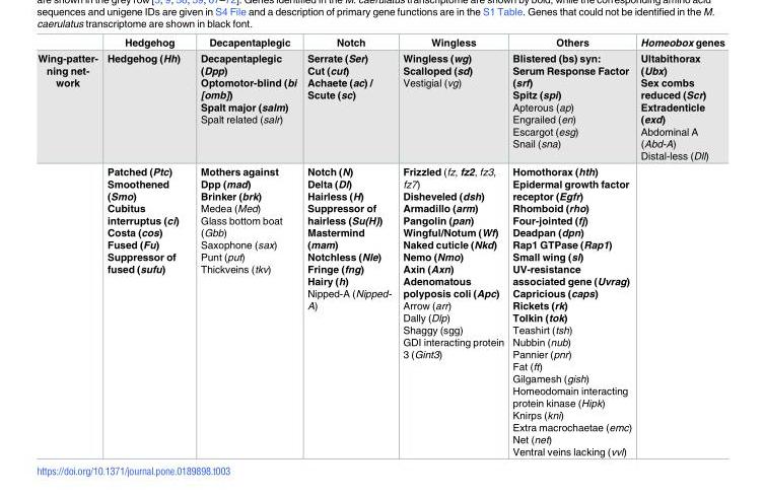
<table><thead><tr><td></td><td>Hedgehog</td><td>Decapentaplegic</td><td>Notch</td><td>Wingless</td><td>Others</td><td>Homeobox genes</td></tr></thead><tbody><tr><td rowspan="2">Wing-patter- ning net- work</td><td>Hedgehog (Hh)</td><td>Decapentaplegic (Dpp) Optomotor-blind (bi [omb]) Spalt major (salm) Spalt related (salr)</td><td>Serrate (Ser) Cut (cut) Achaete (ac) / Scute (sc)</td><td>Wingless (wg) Scalloped (sd) Vestigial (vg)</td><td>Blistered (bs) syn: Serum Response Factor (srf) Spitz (spi) Apterous (ap) Engrailed (en) Escargot (esg) Snail (sna)</td><td>Ultabithorax (Ubx) Sex combs reduced (Scr) Extradenticle (exd) Abdominal A (Abd-A) Distal-less (Dll)</td></tr><tr><td>Patched (Ptc) Smoothened (Smo) Cubitus interruptus (ci) Costa (cos) Fused (Fu) Suppressor of fused (sufu)</td><td>Mothers against Dpp (mad) Brinker (brk) Medea (Med) Glass bottom boat (Gbb) Saxophone (sax) Punt (put) Thickveins (tkv)</td><td>Notch (N) Delta (Dl) Hairless (H) Suppressor of hairless (Su(H)) Mastermind (mam) Notchless (Nle) Fringe (fng) Hairy (h) Nipped-A (Nipped- A)</td><td>Frizzled (fz, fz2, fz3, fz7) Disheveled (dsh) Armadillo (arm) Pangolin (pan) Wingful/Notum (Wf) Naked cuticle (Nkd) Nemo (Nmo) Axin (Axn) Adenomatous polyposis coli (Apc) Arrow (arr) Dally (Dlp) Shaggy (sgg) GDI interacting protein 3 (Gint3)</td><td>Homothorax (hth) Epidermal growth factor receptor (Egfr) Rhomboid (rho) Four-jointed (fj) Deadpan (dpn) Rap1 GTPase (Rap1) Small wing (sl) UV-resistance associated gene (Uvrag) Capricious (caps) Rickets (rk) Tolkin (tok) Teashirt (tsh) Nubbin (nub) Pannier (pnr) Fat (ft) Gilgamesh (gish) Homeodomain interacting protein kinase (Hipk) Knirps (kni) Extra macrochaetae (emc) Net (net) Ventral veins lacking (vvl)</td><td></td></tr></tbody></table>